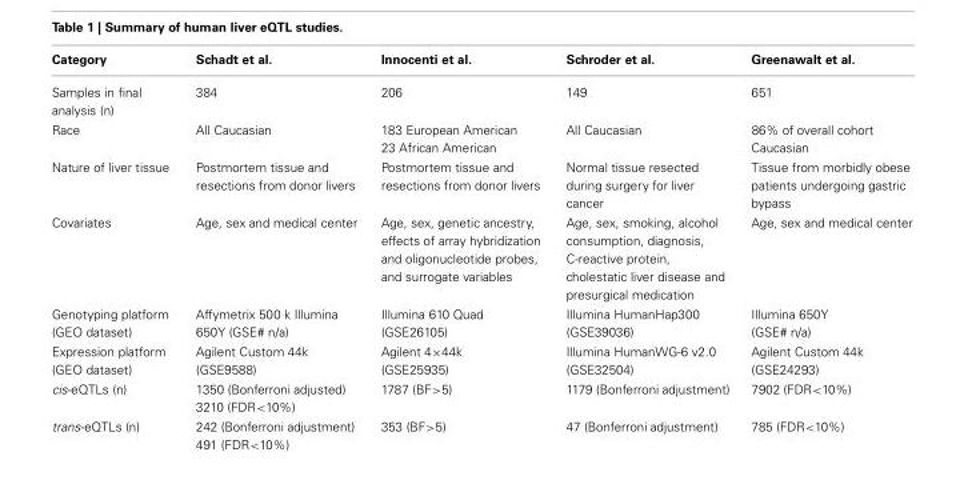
<table><thead><tr><td>Category</td><td>Schadt et al.</td><td>Innocenti et al.</td><td>Schroder et al.</td><td>Greenawalt et al.</td></tr></thead><tbody><tr><td>Samples in final analysis (n)</td><td>384</td><td>206</td><td>149</td><td>651</td></tr><tr><td>Race</td><td>All Caucasian</td><td>183 European American 23 African American</td><td>All Caucasian</td><td>86% of overall cohort Caucasian</td></tr><tr><td>Nature of liver tissue</td><td>Postmortem tissue and resections from donor livers</td><td>Postmortem tissue and resections from donor livers</td><td>Normal tissue resected during surgery for liver cancer</td><td>Tissue from morbidly obese patients undergoing gastric bypass</td></tr><tr><td>Covariates</td><td>Age, sex and medical center</td><td>Age, sex, genetic ancestry, effects of array hybridization and oligonucleotide probes, and surrogate variables</td><td>Age, sex, smoking, alcohol consumption, diagnosis, C-reactive protein, cholestatic liver disease and presurgical medication</td><td>Age, sex and medical center</td></tr><tr><td>Genotyping platform (GEO dataset)</td><td>Affymetrix 500 k Illumina 650Y (GSE# n/a)</td><td>Illumina 610 Quad (GSE26105)</td><td>Illumina HumanHap300 (GSE39036)</td><td>Illumina 650Y (GSE# n/a)</td></tr><tr><td>Expression platform (GEO dataset)</td><td>Agilent Custom 44k (GSE9588)</td><td>Agilent 4×44k (GSE25935)</td><td>Illumina HumanWG-6 v2.0 (GSE32504)</td><td>Agilent Custom 44k (GSE24293)</td></tr><tr><td>cis-eQTLs (n)</td><td>1350 (Bonferroni adjusted) 3210 (FDR&lt;10%)</td><td>1787 (BF&gt;5)</td><td>1179 (Bonferroni adjustment)</td><td>7902 (FDR&lt;10%)</td></tr><tr><td>trans-eQTLs (n)</td><td>242 (Bonferroni adjustment) 491 (FDR&lt;10%)</td><td>353 (BF&gt;5)</td><td>47 (Bonferroni adjustment)</td><td>785 (FDR&lt;10%)</td></tr></tbody></table>